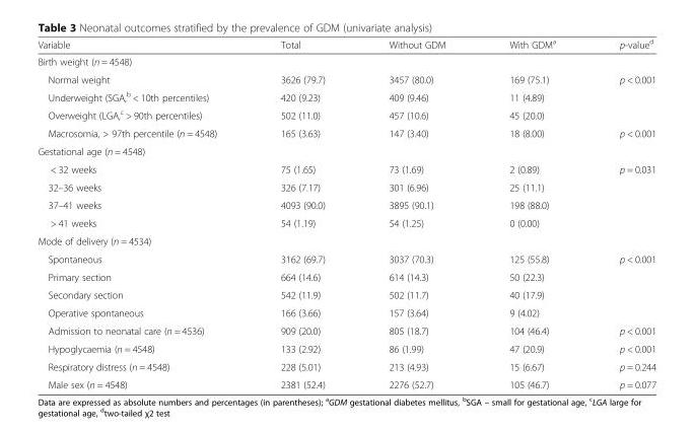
<table><thead><tr><td>Variable</td><td>Total</td><td>Without GDM</td><td>With GDM<sup>a</sup></td><td>p-value<sup>d</sup></td></tr></thead><tbody><tr><td colspan="5">Birth weight (n = 4548)</td></tr><tr><td>Normal weight</td><td>3626 (79.7)</td><td>3457 (80.0)</td><td>169 (75.1)</td><td rowspan="3">p &lt; 0.001</td></tr><tr><td>Underweight (SGA,<sup>b</sup> &lt; 10th percentiles)</td><td>420 (9.23)</td><td>409 (9.46)</td><td>11 (4.89)</td></tr><tr><td>Overweight (LGA,<sup>c</sup> &gt; 90th percentiles)</td><td>502 (11.0)</td><td>457 (10.6)</td><td>45 (20.0)</td></tr><tr><td>Macrosomia, &gt; 97th percentile (n = 4548)</td><td>165 (3.63)</td><td>147 (3.40)</td><td>18 (8.00)</td><td>p &lt; 0.001</td></tr><tr><td colspan="5">Gestational age (n = 4548)</td></tr><tr><td>&lt; 32 weeks</td><td>75 (1.65)</td><td>73 (1.69)</td><td>2 (0.89)</td><td rowspan="4">p = 0.031</td></tr><tr><td>32–36 weeks</td><td>326 (7.17)</td><td>301 (6.96)</td><td>25 (11.1)</td></tr><tr><td>37–41 weeks</td><td>4093 (90.0)</td><td>3895 (90.1)</td><td>198 (88.0)</td></tr><tr><td>&gt; 41 weeks</td><td>54 (1.19)</td><td>54 (1.25)</td><td>0 (0.00)</td></tr><tr><td colspan="5">Mode of delivery (n = 4534)</td></tr><tr><td>Spontaneous</td><td>3162 (69.7)</td><td>3037 (70.3)</td><td>125 (55.8)</td><td rowspan="4">p &lt; 0.001</td></tr><tr><td>Primary section</td><td>664 (14.6)</td><td>614 (14.3)</td><td>50 (22.3)</td></tr><tr><td>Secondary section</td><td>542 (11.9)</td><td>502 (11.7)</td><td>40 (17.9)</td></tr><tr><td>Operative spontaneous</td><td>166 (3.66)</td><td>157 (3.64)</td><td>9 (4.02)</td></tr><tr><td>Admission to neonatal care (n = 4536)</td><td>909 (20.0)</td><td>805 (18.7)</td><td>104 (46.4)</td><td>p &lt; 0.001</td></tr><tr><td>Hypoglycaemia (n = 4548)</td><td>133 (2.92)</td><td>86 (1.99)</td><td>47 (20.9)</td><td>p &lt; 0.001</td></tr><tr><td>Respiratory distress (n = 4548)</td><td>228 (5.01)</td><td>213 (4.93)</td><td>15 (6.67)</td><td>p = 0.244</td></tr><tr><td>Male sex (n = 4548)</td><td>2381 (52.4)</td><td>2276 (52.7)</td><td>105 (46.7)</td><td>p = 0.077</td></tr></tbody></table>